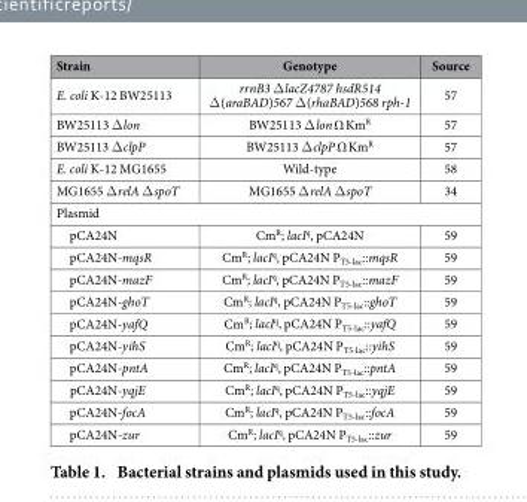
<table><thead><tr><td>Strain</td><td>Genotype</td><td>Source</td></tr></thead><tbody><tr><td>E. coli K-12 BW25113</td><td>rrnB3 Δ lacZ4787 hsdR514 Δ (araBAD)567 Δ (rhaBAD)568 rph-1</td><td>57</td></tr><tr><td>BW25113 Δ lon</td><td>BW25113 Δ lon Ω Km<sup>R</sup></td><td>57</td></tr><tr><td>BW25113 Δ clpP</td><td>BW25113 Δ clpP Ω Km<sup>R</sup></td><td>57</td></tr><tr><td>E. coli K-12 MG1655</td><td>Wild-type</td><td>58</td></tr><tr><td>MG1655 Δ relA Δ spoT</td><td>MG1655 Δ relA Δ spoT</td><td>34</td></tr><tr><td colspan="3">Plasmid</td></tr><tr><td>pCA24N</td><td>Cm<sup>R</sup>; lacI<sup>q</sup>, pCA24N</td><td>59</td></tr><tr><td>pCA24N-mqsR</td><td>Cm<sup>R</sup>; lacI<sup>q</sup>, pCA24N P<sub>T5-lac</sub>::mqsR</td><td>59</td></tr><tr><td>pCA24N-mazF</td><td>Cm<sup>R</sup>; lacI<sup>q</sup>, pCA24N P<sub>T5-lac</sub>::mazF</td><td>59</td></tr><tr><td>pCA24N-ghoT</td><td>Cm<sup>R</sup>; lacI<sup>q</sup>, pCA24N P<sub>T5-lac</sub>::ghoT</td><td>59</td></tr><tr><td>pCA24N-yafQ</td><td>Cm<sup>R</sup>; lacI<sup>q</sup>, pCA24N P<sub>T5-lac</sub>::yafQ</td><td>59</td></tr><tr><td>pCA24N-yihS</td><td>Cm<sup>R</sup>; lacI<sup>q</sup>, pCA24N P<sub>T5-lac</sub>::yihS</td><td>59</td></tr><tr><td>pCA24N-pntA</td><td>Cm<sup>R</sup>; lacI<sup>q</sup>, pCA24N P<sub>T5-lac</sub>::pntA</td><td>59</td></tr><tr><td>pCA24N-yqjE</td><td>Cm<sup>R</sup>; lacI<sup>q</sup>, pCA24N P<sub>T5-lac</sub>::yqjE</td><td>59</td></tr><tr><td>pCA24N-focA</td><td>Cm<sup>R</sup>; lacI<sup>q</sup>, pCA24N P<sub>T5-lac</sub>::focA</td><td>59</td></tr><tr><td>pCA24N-zur</td><td>Cm<sup>R</sup>; lacI<sup>q</sup>, pCA24N P<sub>T5-lac</sub>::zur</td><td>59</td></tr></tbody></table>